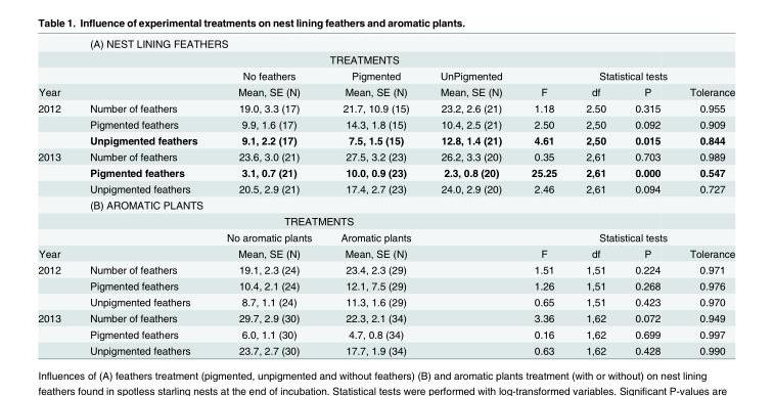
<table><thead><tr><td rowspan="3"></td><td colspan="8">(A) NEST LINING FEATHERS</td></tr><tr><td rowspan="2"></td><td colspan="3">TREATMENTS</td><td></td><td></td><td></td><td></td></tr><tr><td>No feathers</td><td>Pigmented</td><td>UnPigmented</td><td colspan="4">Statistical tests</td></tr></thead><tbody><tr><td>Year</td><td></td><td>Mean, SE (N)</td><td>Mean, SE (N)</td><td>Mean, SE (N)</td><td>F</td><td>df</td><td>P</td><td>Tolerance</td></tr><tr><td rowspan="3">2012</td><td>Number of feathers</td><td>19.0, 3.3 (17)</td><td>21.7, 10.9 (15)</td><td>23.2, 2.6 (21)</td><td>1.18</td><td>2.50</td><td>0.315</td><td>0.955</td></tr><tr><td>Pigmented feathers</td><td>9.9, 1.6 (17)</td><td>14.3, 1.8 (15)</td><td>10.4, 2.5 (21)</td><td>2.50</td><td>2,50</td><td>0.092</td><td>0.909</td></tr><tr><td>Unpigmented feathers</td><td>9.1, 2.2 (17)</td><td>7.5, 1.5 (15)</td><td>12.8, 1.4 (21)</td><td>4.61</td><td>2,50</td><td>0.015</td><td>0.844</td></tr><tr><td rowspan="6">2013</td><td>Number of feathers</td><td>23.6, 3.0 (21)</td><td>27.5, 3.2 (23)</td><td>26.2, 3.3 (20)</td><td>0.35</td><td>2,61</td><td>0.703</td><td>0.989</td></tr><tr><td>Pigmented feathers</td><td>3.1, 0.7 (21)</td><td>10.0, 0.9 (23)</td><td>2.3, 0.8 (20)</td><td>25.25</td><td>2,61</td><td>0.000</td><td>0.547</td></tr><tr><td>Unpigmented feathers</td><td>20.5, 2.9 (21)</td><td>17.4, 2.7 (23)</td><td>24.0, 2.9 (20)</td><td>2.46</td><td>2,61</td><td>0.094</td><td>0.727</td></tr><tr><td colspan="8">(B) AROMATIC PLANTS</td></tr><tr><td></td><td colspan="2">TREATMENTS</td><td></td><td></td><td></td><td></td><td></td></tr><tr><td></td><td>No aromatic plants</td><td>Aromatic plants</td><td></td><td colspan="4">Statistical tests</td></tr><tr><td>Year</td><td></td><td>Mean, SE (N)</td><td>Mean, SE (N)</td><td></td><td>F</td><td>df</td><td>P</td><td>Tolerance</td></tr><tr><td rowspan="3">2012</td><td>Number of feathers</td><td>19.1, 2.3 (24)</td><td>23.4, 2.3 (29)</td><td></td><td>1.51</td><td>1,51</td><td>0.224</td><td>0.971</td></tr><tr><td>Pigmented feathers</td><td>10.4, 2.1 (24)</td><td>12.1, 7.5 (29)</td><td></td><td>1.26</td><td>1,51</td><td>0.268</td><td>0.976</td></tr><tr><td>Unpigmented feathers</td><td>8.7, 1.1 (24)</td><td>11.3, 1.6 (29)</td><td></td><td>0.65</td><td>1,51</td><td>0.423</td><td>0.970</td></tr><tr><td rowspan="3">2013</td><td>Number of feathers</td><td>29.7, 2.9 (30)</td><td>22.3, 2.1 (34)</td><td></td><td>3.36</td><td>1,62</td><td>0.072</td><td>0.949</td></tr><tr><td>Pigmented feathers</td><td>6.0, 1.1 (30)</td><td>4.7, 0.8 (34)</td><td></td><td>0.16</td><td>1,62</td><td>0.699</td><td>0.997</td></tr><tr><td>Unpigmented feathers</td><td>23.7, 2.7 (30)</td><td>17.7, 1.9 (34)</td><td></td><td>0.63</td><td>1,62</td><td>0.428</td><td>0.990</td></tr></tbody></table>